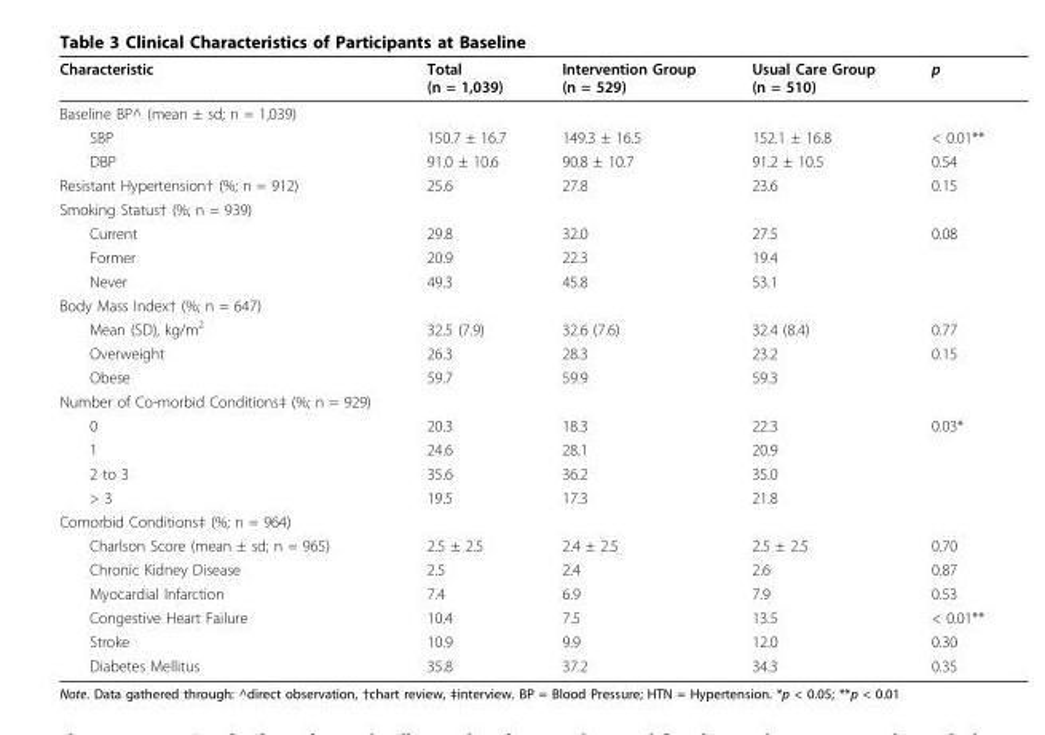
<table><thead><tr><td>Characteristic</td><td>Total (n = 1,039)</td><td>Intervention Group (n = 529)</td><td>Usual Care Group (n = 510)</td><td>p</td></tr></thead><tbody><tr><td colspan="5">Baseline BP^ (mean ± sd; n = 1,039)</td></tr><tr><td>SBP</td><td>150.7 ± 16.7</td><td>149.3 ± 16.5</td><td>152.1 ± 16.8</td><td>&lt; 0.01**</td></tr><tr><td>DBP</td><td>91.0 ± 10.6</td><td>90.8 ± 10.7</td><td>91.2 ± 10.5</td><td>0.54</td></tr><tr><td>Resistant Hypertension† (%; n = 912)</td><td>25.6</td><td>27.8</td><td>23.6</td><td>0.15</td></tr><tr><td colspan="5">Smoking Status† (%; n = 939)</td></tr><tr><td>Current</td><td>29.8</td><td>32.0</td><td>27.5</td><td>0.08</td></tr><tr><td>Former</td><td>20.9</td><td>22.3</td><td>19.4</td><td></td></tr><tr><td>Never</td><td>49.3</td><td>45.8</td><td>53.1</td><td></td></tr><tr><td colspan="5">Body Mass Index† (%; n = 647)</td></tr><tr><td>Mean (SD), kg/m<sup>2</sup></td><td>32.5 (7.9)</td><td>32.6 (7.6)</td><td>32.4 (8.4)</td><td>0.77</td></tr><tr><td>Overweight</td><td>26.3</td><td>28.3</td><td>23.2</td><td>0.15</td></tr><tr><td>Obese</td><td>59.7</td><td>59.9</td><td>59.3</td><td></td></tr><tr><td colspan="5">Number of Co-morbid Conditions‡ (%; n = 929)</td></tr><tr><td>0</td><td>20.3</td><td>18.3</td><td>22.3</td><td>0.03*</td></tr><tr><td>1</td><td>24.6</td><td>28.1</td><td>20.9</td><td></td></tr><tr><td>2 to 3</td><td>35.6</td><td>36.2</td><td>35.0</td><td></td></tr><tr><td>&gt; 3</td><td>19.5</td><td>17.3</td><td>21.8</td><td></td></tr><tr><td colspan="5">Comorbid Conditions‡ (%; n = 964)</td></tr><tr><td>Charlson Score (mean ± sd; n = 965)</td><td>2.5 ± 2.5</td><td>2.4 ± 2.5</td><td>2.5 ± 2.5</td><td>0.70</td></tr><tr><td>Chronic Kidney Disease</td><td>2.5</td><td>2.4</td><td>2.6</td><td>0.87</td></tr><tr><td>Myocardial Infarction</td><td>7.4</td><td>6.9</td><td>7.9</td><td>0.53</td></tr><tr><td>Congestive Heart Failure</td><td>10.4</td><td>7.5</td><td>13.5</td><td>&lt; 0.01**</td></tr><tr><td>Stroke</td><td>10.9</td><td>9.9</td><td>12.0</td><td>0.30</td></tr><tr><td>Diabetes Mellitus</td><td>35.8</td><td>37.2</td><td>34.3</td><td>0.35</td></tr></tbody></table>